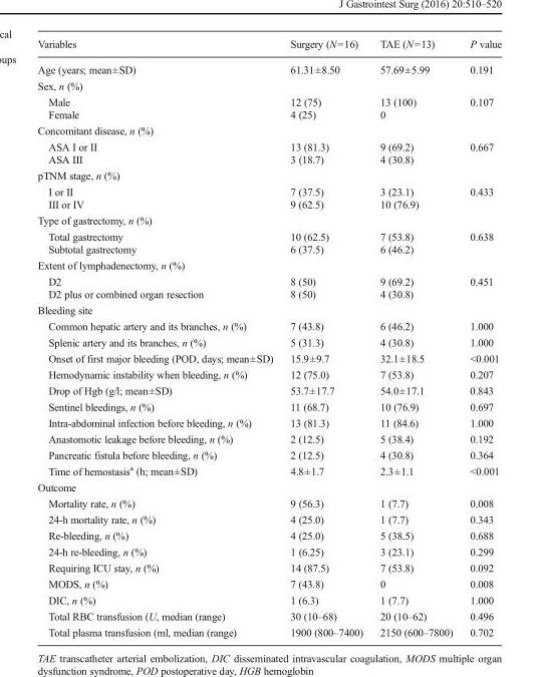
<table><thead><tr><td>Variables</td><td>Surgery (N=16)</td><td>TAE (N=13)</td><td>P value</td></tr></thead><tbody><tr><td>Age (years; mean±SD)</td><td>61.31±8.50</td><td>57.69±5.99</td><td>0.191</td></tr><tr><td colspan="4">Sex, n (%)</td></tr><tr><td>Male</td><td>12 (75)</td><td>13 (100)</td><td rowspan="2">0.107</td></tr><tr><td>Female</td><td>4 (25)</td><td>0</td></tr><tr><td colspan="4">Concomitant disease, n (%)</td></tr><tr><td>ASA I or II</td><td>13 (81.3)</td><td>9 (69.2)</td><td rowspan="2">0.667</td></tr><tr><td>ASA III</td><td>3 (18.7)</td><td>4 (30.8)</td></tr><tr><td colspan="4">pTNM stage, n (%)</td></tr><tr><td>I or II</td><td>7 (37.5)</td><td>3 (23.1)</td><td rowspan="2">0.433</td></tr><tr><td>III or IV</td><td>9 (62.5)</td><td>10 (76.9)</td></tr><tr><td colspan="4">Type of gastrectomy, n (%)</td></tr><tr><td>Total gastrectomy</td><td>10 (62.5)</td><td>7 (53.8)</td><td rowspan="2">0.638</td></tr><tr><td>Subtotal gastrectomy</td><td>6 (37.5)</td><td>6 (46.2)</td></tr><tr><td colspan="4">Extent of lymphadenectomy, n (%)</td></tr><tr><td>D2</td><td>8 (50)</td><td>9 (69.2)</td><td rowspan="2">0.451</td></tr><tr><td>D2 plus or combined organ resection</td><td>8 (50)</td><td>4 (30.8)</td></tr><tr><td colspan="4">Bleeding site</td></tr><tr><td>Common hepatic artery and its branches, n (%)</td><td>7 (43.8)</td><td>6 (46.2)</td><td>1.000</td></tr><tr><td>Splenic artery and its branches, n (%)</td><td>5 (31.3)</td><td>4 (30.8)</td><td>1.000</td></tr><tr><td>Onset of first major bleeding (POD, days; mean±SD)</td><td>15.9±9.7</td><td>32.1±18.5</td><td>&lt;0.001</td></tr><tr><td>Hemodynamic instability when bleeding, n (%)</td><td>12 (75.0)</td><td>7 (53.8)</td><td>0.207</td></tr><tr><td>Drop of Hgb (g/l; mean±SD)</td><td>53.7±17.7</td><td>54.0±17.1</td><td>0.843</td></tr><tr><td>Sentinel bleedings, n (%)</td><td>11 (68.7)</td><td>10 (76.9)</td><td>0.697</td></tr><tr><td>Intra-abdominal infection before bleeding, n (%)</td><td>13 (81.3)</td><td>11 (84.6)</td><td>1.000</td></tr><tr><td>Anastomotic leakage before bleeding, n (%)</td><td>2 (12.5)</td><td>5 (38.4)</td><td>0.192</td></tr><tr><td>Pancreatic fistula before bleeding, n (%)</td><td>2 (12.5)</td><td>4 (30.8)</td><td>0.364</td></tr><tr><td>Time of hemostasis<sup>a</sup> (h; mean±SD)</td><td>4.8±1.7</td><td>2.3±1.1</td><td>&lt;0.001</td></tr><tr><td colspan="4">Outcome</td></tr><tr><td>Mortality rate, n (%)</td><td>9 (56.3)</td><td>1 (7.7)</td><td>0.008</td></tr><tr><td>24-h mortality rate, n (%)</td><td>4 (25.0)</td><td>1 (7.7)</td><td>0.343</td></tr><tr><td>Re-bleeding, n (%)</td><td>4 (25.0)</td><td>5 (38.5)</td><td>0.688</td></tr><tr><td>24-h re-bleeding, n (%)</td><td>1 (6.25)</td><td>3 (23.1)</td><td>0.299</td></tr><tr><td>Requiring ICU stay, n (%)</td><td>14 (87.5)</td><td>7 (53.8)</td><td>0.092</td></tr><tr><td>MODS, n (%)</td><td>7 (43.8)</td><td>0</td><td>0.008</td></tr><tr><td>DIC, n (%)</td><td>1 (6.3)</td><td>1 (7.7)</td><td>1.000</td></tr><tr><td>Total RBC transfusion (U, median (range)</td><td>30 (10–68)</td><td>20 (10–62)</td><td>0.496</td></tr><tr><td>Total plasma transfusion (ml, median (range)</td><td>1900 (800–7400)</td><td>2150 (600–7800)</td><td>0.702</td></tr></tbody></table>